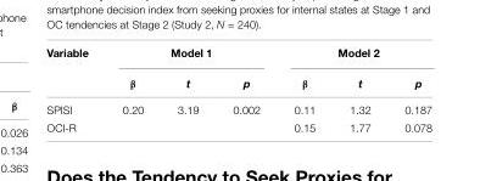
<table><thead><tr><td rowspan="2">Variable</td><td colspan="3">Model 1</td><td colspan="3">Model 2</td></tr><tr><td>β</td><td>t</td><td>p</td><td>β</td><td>t</td><td>p</td></tr></thead><tbody><tr><td>SPISI</td><td>0.20</td><td>3.19</td><td>0.002</td><td>0.11</td><td>1.32</td><td>0.187</td></tr><tr><td>OCI-R</td><td></td><td></td><td></td><td>0.15</td><td>1.77</td><td>0.078</td></tr></tbody></table>